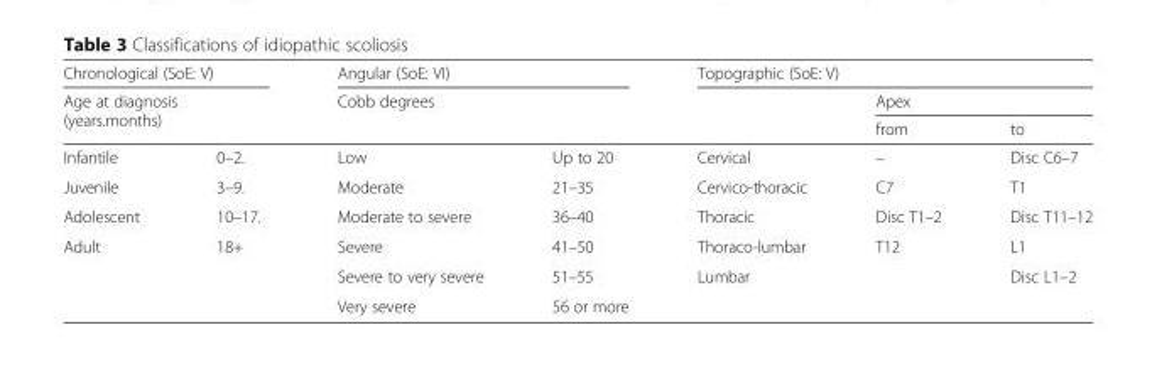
<table><thead><tr><td rowspan="3" colspan="2">Chronological (SoE: V) Age at diagnosis (years.months)</td><td rowspan="3" colspan="2">Angular (SoE: VI) Cobb degrees</td><td colspan="3">Topographic (SoE: V)</td></tr><tr><td rowspan="3">Cervical</td><td colspan="2">Apex</td></tr><tr><td rowspan="2">from –</td><td rowspan="2">to Disc C6–7</td></tr><tr><td>Infantile</td><td>0–2.</td><td>Low</td><td>Up to 20</td></tr></thead><tbody><tr><td>Juvenile</td><td>3–9.</td><td>Moderate</td><td>21–35</td><td>Cervico-thoracic</td><td>C7</td><td>T1</td></tr><tr><td>Adolescent</td><td>10–17.</td><td>Moderate to severe</td><td>36–40</td><td>Thoracic</td><td>Disc T1–2</td><td>Disc T11–12</td></tr><tr><td rowspan="3">Adult</td><td>18+</td><td>Severe</td><td>41–50</td><td>Thoraco-lumbar</td><td>T12</td><td>L1</td></tr><tr><td></td><td>Severe to very severe</td><td>51–55</td><td>Lumbar</td><td></td><td>Disc L1–2</td></tr><tr><td></td><td>Very severe</td><td>56 or more</td><td></td><td></td><td></td></tr></tbody></table>